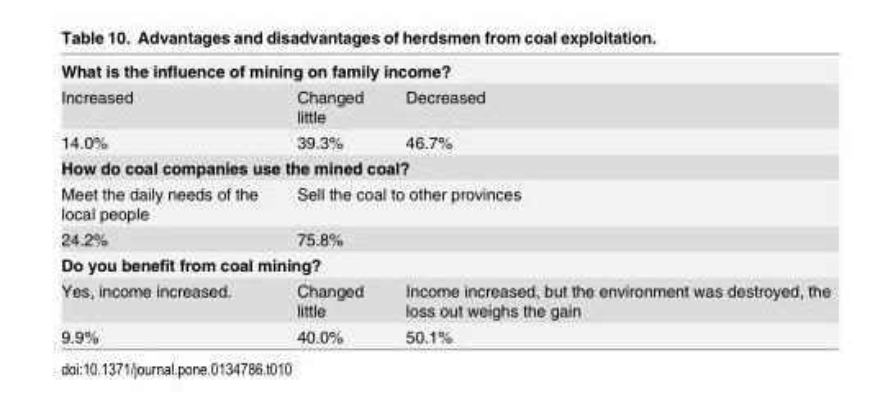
<table><tbody><tr><td colspan="3">What is the influence of mining on family income?</td></tr><tr><td>Increased</td><td>Changed little</td><td>Decreased</td></tr><tr><td>14.0%</td><td>39.3%</td><td>46.7%</td></tr><tr><td colspan="3">How do coal companies use the mined coal?</td></tr><tr><td>Meet the daily needs of the local people</td><td colspan="2">Sell the coal to other provinces</td></tr><tr><td>24.2%</td><td colspan="2">75.8%</td></tr><tr><td colspan="3">Do you benefit from coal mining?</td></tr><tr><td>Yes, income increased.</td><td>Changed little</td><td>Income increased, but the environment was destroyed, the loss out weighs the gain</td></tr><tr><td>9.9%</td><td>40.0%</td><td>50.1%</td></tr></tbody></table>